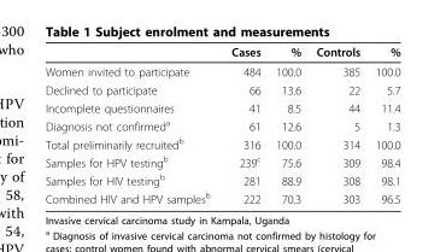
<table><thead><tr><td></td><td>Cases</td><td>%</td><td>Controls</td><td>%</td></tr></thead><tbody><tr><td>Women invited to participate</td><td>484</td><td>100.0</td><td>385</td><td>100.0</td></tr><tr><td>Declined to participate</td><td>66</td><td>13.6</td><td>22</td><td>5.7</td></tr><tr><td>Incomplete questionnaires</td><td>41</td><td>8.5</td><td>44</td><td>11.4</td></tr><tr><td>Diagnosis not confirmed<sup>a</sup></td><td>61</td><td>12.6</td><td>5</td><td>1.3</td></tr><tr><td>Total preliminarily recruited<sup>b</sup></td><td>316</td><td>100.0</td><td>314</td><td>100.0</td></tr><tr><td>Samples for HPV testing<sup>b</sup></td><td>239<sup>c</sup></td><td>75.6</td><td>309</td><td>98.4</td></tr><tr><td>Samples for HIV testing<sup>b</sup></td><td>281</td><td>88.9</td><td>308</td><td>98.1</td></tr><tr><td>Combined HIV and HPV samples<sup>b</sup></td><td>222</td><td>70.3</td><td>303</td><td>96.5</td></tr></tbody></table>